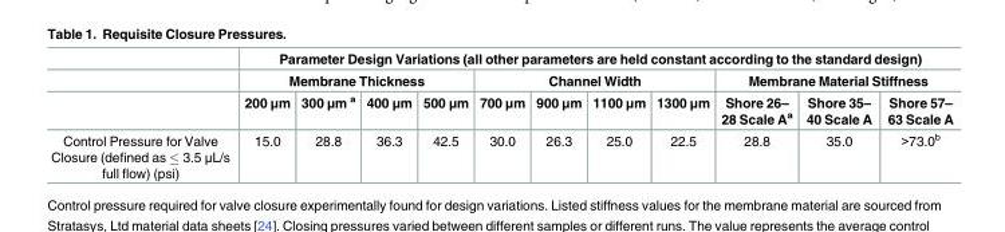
<table><thead><tr><td rowspan="3"></td><td colspan="11">Parameter Design Variations (all other parameters are held constant according to the standard design)</td></tr><tr><td colspan="4">Membrane Thickness</td><td colspan="4">Channel Width</td><td colspan="3">Membrane Material Stiffness</td></tr><tr><td>200 μm</td><td>300 μm <sup>a</sup></td><td>400 μm</td><td>500 μm</td><td>700 μm</td><td>900 μm</td><td>1100 μm</td><td>1300 μm</td><td>Shore 26– 28 Scale A<sup>a</sup></td><td>Shore 35– 40 Scale A</td><td>Shore 57– 63 Scale A</td></tr></thead><tbody><tr><td>Control Pressure for Valve Closure (defined as ≤ 3.5 μL/s full flow) (psi)</td><td>15.0</td><td>28.8</td><td>36.3</td><td>42.5</td><td>30.0</td><td>26.3</td><td>25.0</td><td>22.5</td><td>28.8</td><td>35.0</td><td>&gt;73.0<sup>b</sup></td></tr></tbody></table>